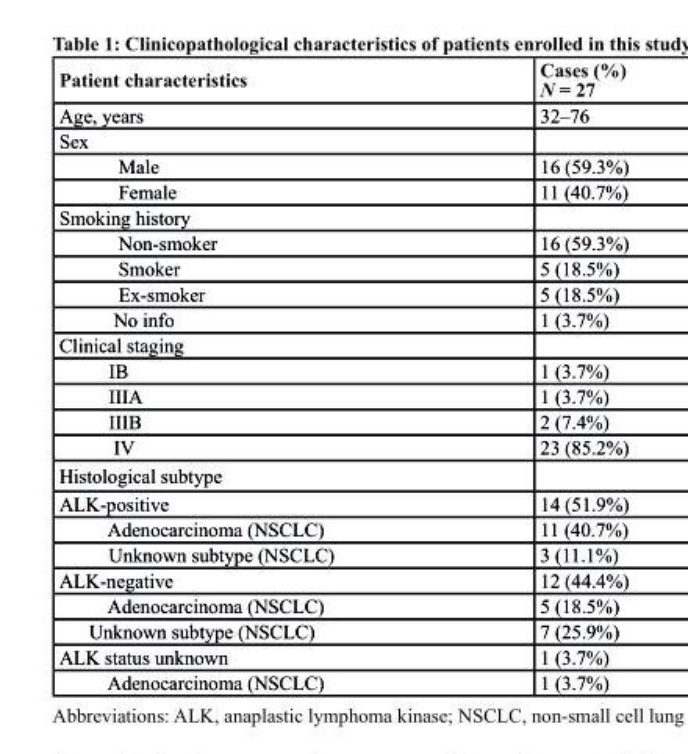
<table><thead><tr><td>Patient characteristics</td><td>cases (%) N = 27</td></tr></thead><tbody><tr><td>Age, years</td><td>32–76</td></tr><tr><td colspan="2">Sex</td></tr><tr><td>Male</td><td>16 (59.3%)</td></tr><tr><td>Female</td><td>11 (40.7%)</td></tr><tr><td colspan="2">Smoking history</td></tr><tr><td>Non-smoker</td><td>16 (59.3%)</td></tr><tr><td>Smoker</td><td>5 (18.5%)</td></tr><tr><td>Ex-smoker</td><td>5 (18.5%)</td></tr><tr><td>No info</td><td>1 (3.7%)</td></tr><tr><td colspan="2">Clinical staging</td></tr><tr><td>IB</td><td>1 (3.7%)</td></tr><tr><td>IIIA</td><td>1 (3.7%)</td></tr><tr><td>IIIB</td><td>2 (7.4%)</td></tr><tr><td>IV</td><td>23 (85.2%)</td></tr><tr><td colspan="2">Histological subtype</td></tr><tr><td>ALK-positive</td><td>14 (51.9%)</td></tr><tr><td>Adenocarcinoma (NSCLC)</td><td>11 (40.7%)</td></tr><tr><td>Unknown subtype (NSCLC)</td><td>3 (11.1%)</td></tr><tr><td>ALK-negative</td><td>12 (44.4%)</td></tr><tr><td>Adenocarcinoma (NSCLC)</td><td>5 (18.5%)</td></tr><tr><td>Unknown subtype (NSCLC)</td><td>7 (25.9%)</td></tr><tr><td>ALK status unknown</td><td>1 (3.7%)</td></tr><tr><td>Adenocarcinoma (NSCLC)</td><td>1 (3.7%)</td></tr></tbody></table>